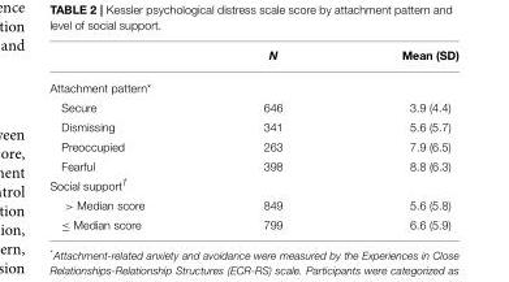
<table><thead><tr><td></td><td>N</td><td>Mean (SD)</td></tr></thead><tbody><tr><td colspan="3">Attachment pattern*</td></tr><tr><td>Secure</td><td>646</td><td>3.9 (4.4)</td></tr><tr><td>Dismissing</td><td>341</td><td>5.6 (5.7)</td></tr><tr><td>Preoccupied</td><td>263</td><td>7.9 (6.5)</td></tr><tr><td>Fearful</td><td>398</td><td>8.8 (6.3)</td></tr><tr><td colspan="3">Social support<sup>†</sup></td></tr><tr><td>&gt; Median score</td><td>849</td><td>5.6 (5.8)</td></tr><tr><td>≤ Median score</td><td>799</td><td>6.6 (5.9)</td></tr></tbody></table>